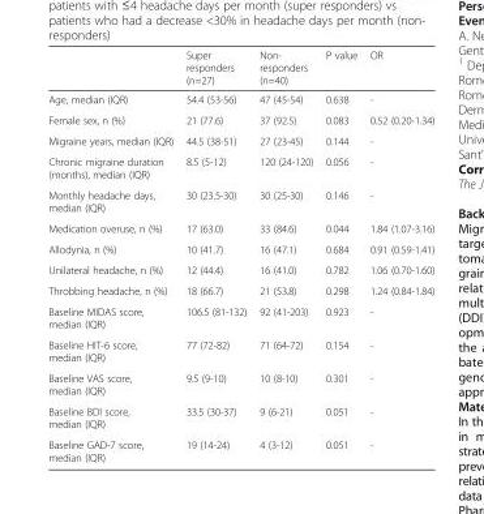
<table><thead><tr><td></td><td>Super responders (n=27)</td><td>Non- responders (n=40)</td><td>P value</td><td>OR</td></tr></thead><tbody><tr><td>Age, median (IQR)</td><td>54.4 (53-56)</td><td>47 (45-54)</td><td>0.638</td><td>-</td></tr><tr><td>Female sex, n (%)</td><td>21 (77.6)</td><td>37 (92.5)</td><td>0.083</td><td>0.52 (0.20-1.34)</td></tr><tr><td>Migraine years, median (IQR)</td><td>44.5 (38-51)</td><td>27 (23-45)</td><td>0.144</td><td>-</td></tr><tr><td>Chronic migraine duration (months), median (IQR)</td><td>8.5 (5-12)</td><td>120 (24-120)</td><td>0.056</td><td>-</td></tr><tr><td>Monthly headache days, median (IQR)</td><td>30 (23.5-30)</td><td>30 (25-30)</td><td>0.146</td><td>-</td></tr><tr><td>Medication overuse, n (%)</td><td>17 (63.0)</td><td>33 (84.6)</td><td>0.044</td><td>1.84 (1.07-3.16)</td></tr><tr><td>Allodynia, n (%)</td><td>10 (41.7)</td><td>16 (47.1)</td><td>0.684</td><td>0.91 (0.59-1.41)</td></tr><tr><td>Unilateral headache, n (%)</td><td>12 (44.4)</td><td>16 (41.0)</td><td>0.782</td><td>1.06 (0.70-1.60)</td></tr><tr><td>Throbbing headache, n (%)</td><td>18 (66.7)</td><td>21 (53.8)</td><td>0.298</td><td>1.24 (0.84-1.84)</td></tr><tr><td>Baseline MIDAS score, median (IQR)</td><td>106.5 (81-132)</td><td>92 (41-203)</td><td>0.923</td><td>-</td></tr><tr><td>Baseline HIT-6 score, median (IQR)</td><td>77 (72-82)</td><td>71 (64-72)</td><td>0.154</td><td>-</td></tr><tr><td>Baseline VAS score, median (IQR)</td><td>9.5 (9-10)</td><td>10 (8-10)</td><td>0.301</td><td>-</td></tr><tr><td>Baseline BDI score, median (IQR)</td><td>33.5 (30-37)</td><td>9 (6-21)</td><td>0.051</td><td>-</td></tr><tr><td>Baseline GAD-7 score, median (IQR)</td><td>19 (14-24)</td><td>4 (3-12)</td><td>0.051</td><td>-</td></tr></tbody></table>